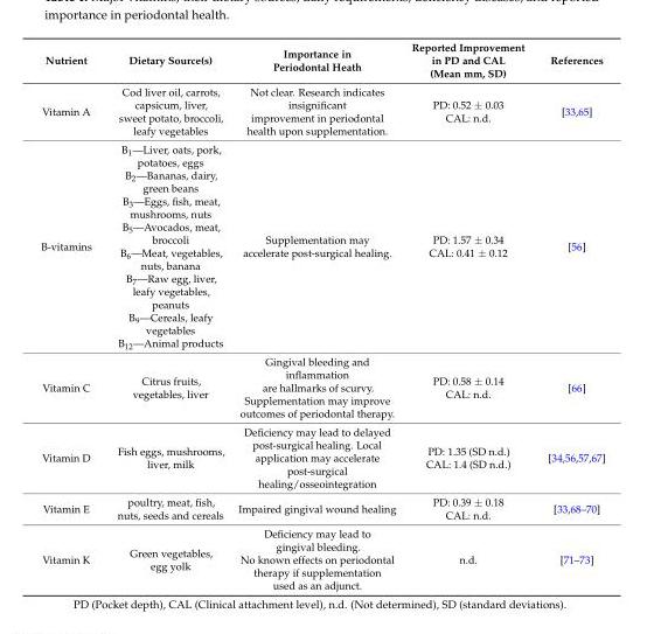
<table><thead><tr><td>Nutrient</td><td>Dietary Source(s)</td><td>Importance in Periodontal Heath</td><td>Reported Improvement in PD and CAL (Mean mm, SD)</td><td>References</td></tr></thead><tbody><tr><td>Vitamin A</td><td>Cod liver oil, carrots, capsicum, liver, sweet potato, broccoli, leafy vegetables</td><td>Not clear. Research indicates insignificant improvement in periodontal health upon supplementation.</td><td>PD: 0.52 ± 0.03 CAL: n.d.</td><td>[33,65]</td></tr><tr><td>B-vitamins</td><td>B<sub>1</sub>—Liver, oats, pork, potatoes, eggs B<sub>2</sub>—Bananas, dairy, green beans B<sub>3</sub>—Eggs, fish, meat, mushrooms, nuts B<sub>5</sub>—Avocados, meat, broccoli B<sub>6</sub>—Meat, vegetables, nuts, banana B<sub>7</sub>—Raw egg, liver, leafy vegetables, peanuts B<sub>9</sub>—Cereals, leafy vegetables B<sub>12</sub>—Animal products</td><td>Supplementation may accelerate post-surgical healing.</td><td>PD: 1.57 ± 0.34 CAL: 0.41 ± 0.12</td><td>[56]</td></tr><tr><td>Vitamin C</td><td>Citrus fruits, vegetables, liver</td><td>Gingival bleeding and inflammation are hallmarks of scurvy. Supplementation may improve outcomes of periodontal therapy.</td><td>PD: 0.58 ± 0.14 CAL: n.d.</td><td>[66]</td></tr><tr><td>Vitamin D</td><td>Fish eggs, mushrooms, liver, milk</td><td>Deficiency may lead to delayed post-surgical healing. Local application may accelerate post-surgical healing/osseointegration</td><td>PD: 1.35 (SD n.d.) CAL: 1.4 (SD n.d.)</td><td>[34,56,57,67]</td></tr><tr><td>Vitamin E</td><td>poultry, meat, fish, nuts, seeds and cereals</td><td>Impaired gingival wound healing</td><td>PD: 0.39 ± 0.18 CAL: n.d.</td><td>[33,68–70]</td></tr><tr><td>Vitamin K</td><td>Green vegetables, egg yolk</td><td>Deficiency may lead to gingival bleeding. No known effects on periodontal therapy if supplementation used as an adjunct.</td><td>n.d.</td><td>[71–73]</td></tr></tbody></table>